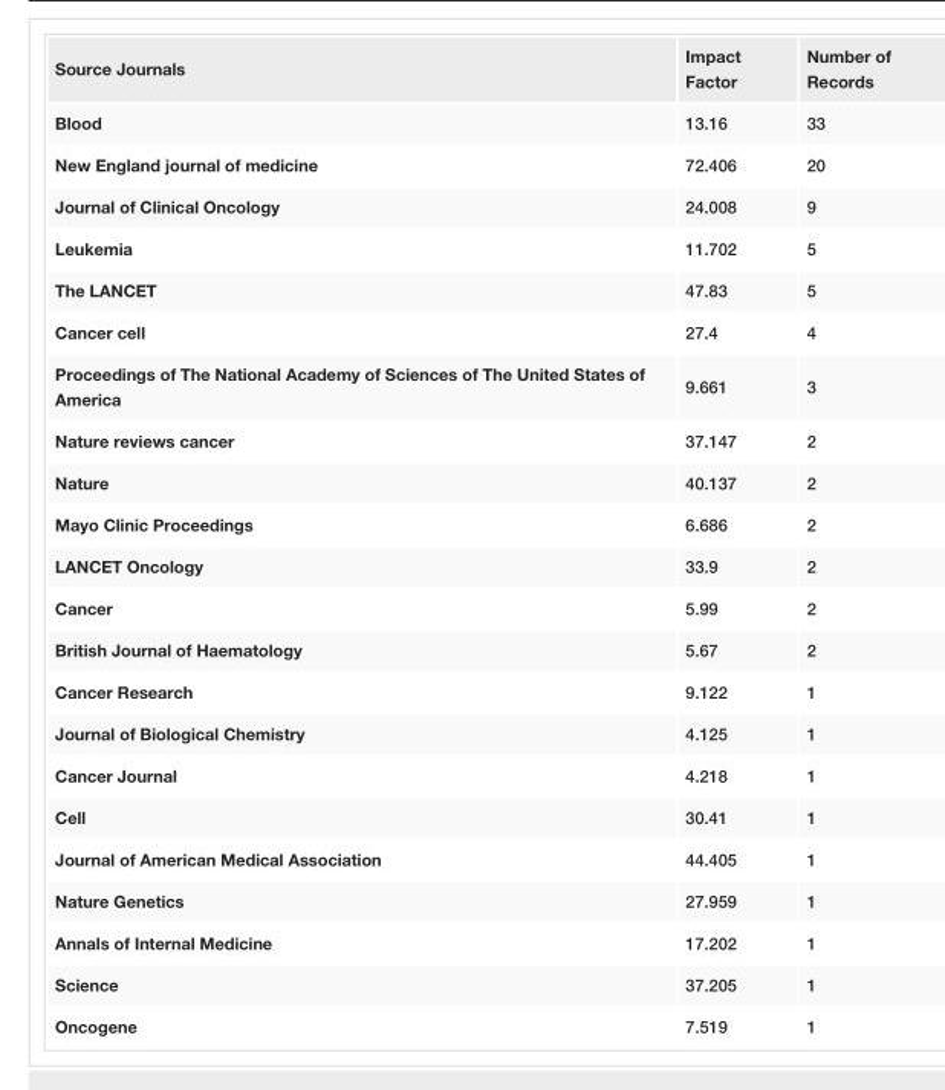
<table><tbody><tr><td>Source Journals</td><td>Impact Factor</td><td>Number of Records</td></tr><tr><td>Blood</td><td>13.16</td><td>33</td></tr><tr><td>New England journal of medicine</td><td>72.406</td><td>20</td></tr><tr><td>Journal of Clinical Oncology</td><td>24.008</td><td>9</td></tr><tr><td>Leukemia</td><td>11.702</td><td>5</td></tr><tr><td>The LANCET</td><td>47.83</td><td>5</td></tr><tr><td>Cancer cell</td><td>27.4</td><td>4</td></tr><tr><td>Proceedings of The National Academy of Sciences of The United States of America</td><td>9.661</td><td>3</td></tr><tr><td>Nature reviews cancer</td><td>37.147</td><td>2</td></tr><tr><td>Nature</td><td>40.137</td><td>2</td></tr><tr><td>Mayo Clinic Proceedings</td><td>6.686</td><td>2</td></tr><tr><td>LANCET Oncology</td><td>33.9</td><td>2</td></tr><tr><td>Cancer</td><td>5.99</td><td>2</td></tr><tr><td>British Journal of Haematology</td><td>5.67</td><td>2</td></tr><tr><td>Cancer Research</td><td>9.122</td><td>1</td></tr><tr><td>Journal of Biological Chemistry</td><td>4.125</td><td>1</td></tr><tr><td>Cancer Journal</td><td>4.218</td><td>1</td></tr><tr><td>Cell</td><td>30.41</td><td>1</td></tr><tr><td>Journal of American Medical Association</td><td>44.405</td><td>1</td></tr><tr><td>Nature Genetics</td><td>27.959</td><td>1</td></tr><tr><td>Annals of Internal Medicine</td><td>17.202</td><td>1</td></tr><tr><td>Science</td><td>37.205</td><td>1</td></tr><tr><td>Oncogene</td><td>7.519</td><td>1</td></tr></tbody></table>